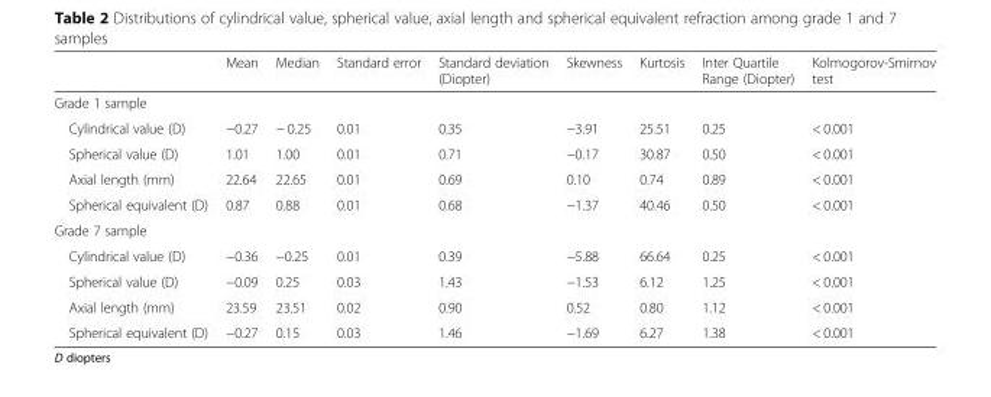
<table><thead><tr><td></td><td>Mean</td><td>Median</td><td>Standard error</td><td>Standard deviation (Diopter)</td><td>Skewness</td><td>Kurtosis</td><td>Inter Quartile Range (Diopter)</td><td>Kolmogorov-Smirnov test</td></tr></thead><tbody><tr><td colspan="9">Grade 1 sample</td></tr><tr><td>Cylindrical value (D)</td><td>−0.27</td><td>− 0.25</td><td>0.01</td><td>0.35</td><td>−3.91</td><td>25.51</td><td>0.25</td><td>&lt; 0.001</td></tr><tr><td>Spherical value (D)</td><td>1.01</td><td>1.00</td><td>0.01</td><td>0.71</td><td>−0.17</td><td>30.87</td><td>0.50</td><td>&lt; 0.001</td></tr><tr><td>Axial length (mm)</td><td>22.64</td><td>22.65</td><td>0.01</td><td>0.69</td><td>0.10</td><td>0.74</td><td>0.89</td><td>&lt; 0.001</td></tr><tr><td>Spherical equivalent (D)</td><td>0.87</td><td>0.88</td><td>0.01</td><td>0.68</td><td>−1.37</td><td>40.46</td><td>0.50</td><td>&lt; 0.001</td></tr><tr><td colspan="9">Grade 7 sample</td></tr><tr><td>Cylindrical value (D)</td><td>−0.36</td><td>−0.25</td><td>0.01</td><td>0.39</td><td>−5.88</td><td>66.64</td><td>0.25</td><td>&lt; 0.001</td></tr><tr><td>Spherical value (D)</td><td>−0.09</td><td>0.25</td><td>0.03</td><td>1.43</td><td>−1.53</td><td>6.12</td><td>1.25</td><td>&lt; 0.001</td></tr><tr><td>Axial length (mm)</td><td>23.59</td><td>23.51</td><td>0.02</td><td>0.90</td><td>0.52</td><td>0.80</td><td>1.12</td><td>&lt; 0.001</td></tr><tr><td>Spherical equivalent (D)</td><td>−0.27</td><td>0.15</td><td>0.03</td><td>1.46</td><td>−1.69</td><td>6.27</td><td>1.38</td><td>&lt; 0.001</td></tr></tbody></table>